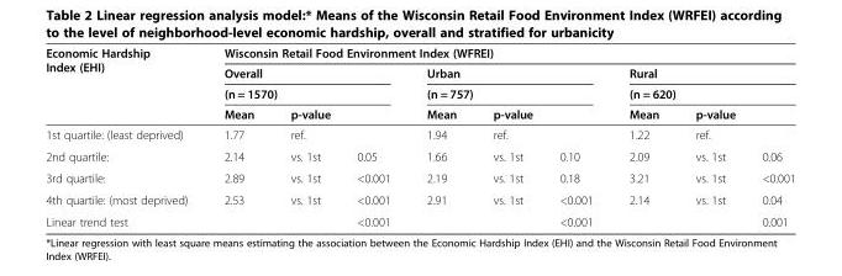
<table><thead><tr><td rowspan="5">Economic Hardship Index (EHI) 1st quartile: (least deprived)</td><td colspan="9">Wisconsin Retail Food Environment Index (WFREI)</td></tr><tr><td rowspan="2" colspan="3">Overall (n = 1570)</td><td rowspan="2" colspan="3">Urban (n = 757)</td><td rowspan="2" colspan="3">Rural (n = 620)</td></tr><tr></tr><tr><td rowspan="2">Mean 1.77</td><td colspan="2">p-value</td><td rowspan="2">Mean 1.94</td><td colspan="2">p-value</td><td rowspan="2">Mean 1.22</td><td colspan="2">p-value</td></tr><tr><td>ref.</td><td></td><td>ref.</td><td></td><td>ref.</td><td></td></tr></thead><tbody><tr><td>2nd quartile:</td><td>2.14</td><td>vs. 1st</td><td>0.05</td><td>1.66</td><td>vs. 1st</td><td>0.10</td><td>2.09</td><td>vs. 1st</td><td>0.06</td></tr><tr><td>3rd quartile:</td><td>2.89</td><td>vs. 1st</td><td>&lt;0.001</td><td>2.19</td><td>vs. 1st</td><td>0.18</td><td>3.21</td><td>vs. 1st</td><td>&lt;0.001</td></tr><tr><td>4th quartile: (most deprived)</td><td>2.53</td><td>vs. 1st</td><td>&lt;0.001</td><td>2.91</td><td>vs. 1st</td><td>&lt;0.001</td><td>2.14</td><td>vs. 1st</td><td>0.04</td></tr><tr><td>Linear trend test</td><td></td><td></td><td>&lt;0.001</td><td></td><td></td><td>&lt;0.001</td><td></td><td></td><td>0.001</td></tr></tbody></table>